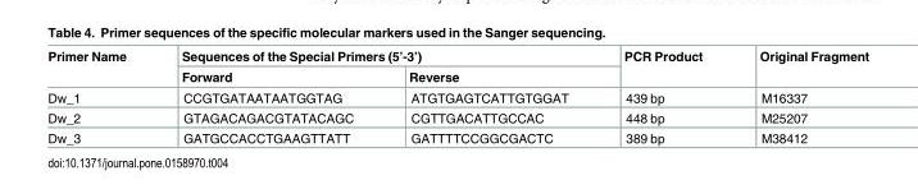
<table><thead><tr><td rowspan="2">Primer Name</td><td colspan="2">Sequences of the Special Primers (5’-3’)</td><td rowspan="2">PCR Product</td><td rowspan="2">Original Fragment</td></tr><tr><td>Forward</td><td>Reverse</td></tr></thead><tbody><tr><td>Dw_1</td><td>CCGTGATAATAATGGTAG</td><td>ATGTGAGTCATTGTGGAT</td><td>439 bp</td><td>M16337</td></tr><tr><td>Dw_2</td><td>GTAGACAGACGTATACAGC</td><td>CGTTGACATTGCCAC</td><td>448 bp</td><td>M25207</td></tr><tr><td>Dw_3</td><td>GATGCCACCTGAAGTTATT</td><td>GATTTTCCGGCGACTC</td><td>389 bp</td><td>M38412</td></tr></tbody></table>